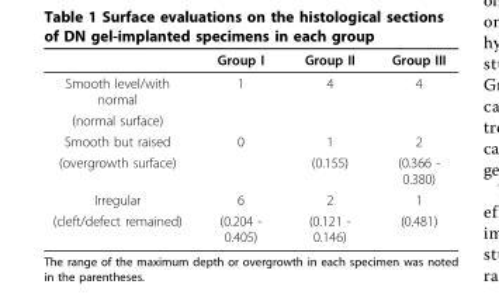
<table><thead><tr><td></td><td>Group I</td><td>Group II</td><td>Group III</td></tr></thead><tbody><tr><td>Smooth level/with normal</td><td>1</td><td>4</td><td>4</td></tr><tr><td colspan="4">(normal surface)</td></tr><tr><td>Smooth but raised</td><td>0</td><td>1</td><td>2</td></tr><tr><td>(overgrowth surface)</td><td></td><td>(0.155)</td><td>(0.366 - 0.380)</td></tr><tr><td>Irregular</td><td>6</td><td>2</td><td>1</td></tr><tr><td>(cleft/defect remained)</td><td>(0.204 - 0.405)</td><td>(0.121 - 0.146)</td><td>(0.481)</td></tr></tbody></table>